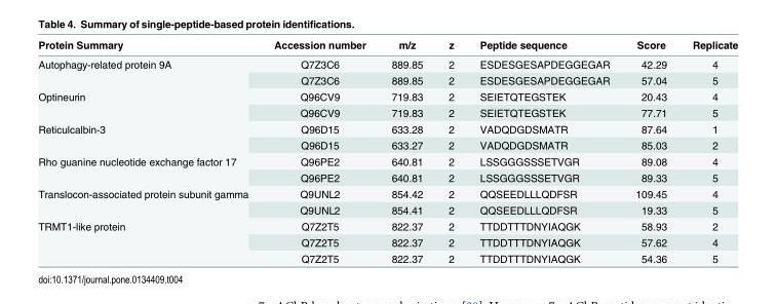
<table><thead><tr><td>Protein Summary</td><td>Accession number</td><td>m/z</td><td>z</td><td>Peptide sequence</td><td>Score</td><td>Replicate</td></tr></thead><tbody><tr><td rowspan="2">Autophagy-related protein 9A</td><td>Q7Z3C6</td><td>889.85</td><td>2</td><td>ESDESGESAPDEGGEGAR</td><td>42.29</td><td>4</td></tr><tr><td>Q7Z3C6</td><td>889.85</td><td>2</td><td>ESDESGESAPDEGGEGAR</td><td>57.04</td><td>5</td></tr><tr><td rowspan="2">Optineurin</td><td>Q96CV9</td><td>719.83</td><td>2</td><td>SEIETQTEGSTEK</td><td>20.43</td><td>4</td></tr><tr><td>Q96CV9</td><td>719.83</td><td>2</td><td>SEIETQTEGSTEK</td><td>77.71</td><td>5</td></tr><tr><td rowspan="2">Reticulcalbin-3</td><td>Q96D15</td><td>633.28</td><td>2</td><td>VADQDGDSMATR</td><td>87.64</td><td>1</td></tr><tr><td>Q96D15</td><td>633.27</td><td>2</td><td>VADQDGDSMATR</td><td>85.03</td><td>2</td></tr><tr><td rowspan="2">Rho guanine nucleotide exchange factor 17</td><td>Q96PE2</td><td>640.81</td><td>2</td><td>LSSGGGSSSETVGR</td><td>89.08</td><td>4</td></tr><tr><td>Q96PE2</td><td>640.81</td><td>2</td><td>LSSGGGSSSETVGR</td><td>89.33</td><td>5</td></tr><tr><td rowspan="2">Translocon-associated protein subunit gamma</td><td>Q9UNL2</td><td>854.42</td><td>2</td><td>QQSEEDLLLQDFSR</td><td>109.45</td><td>4</td></tr><tr><td>Q9UNL2</td><td>854.41</td><td>2</td><td>QQSEEDLLLQDFSR</td><td>19.33</td><td>5</td></tr><tr><td rowspan="3">TRMT1-like protein</td><td>Q7Z2T5</td><td>822.37</td><td>2</td><td>TTDDTTTDNYIAQGK</td><td>58.93</td><td>2</td></tr><tr><td>Q7Z2T5</td><td>822.37</td><td>2</td><td>TTDDTTTDNYIAQGK</td><td>57.62</td><td>4</td></tr><tr><td>Q7Z2T5</td><td>822.37</td><td>2</td><td>TTDDTTTDNYIAQGK</td><td>54.36</td><td>5</td></tr></tbody></table>